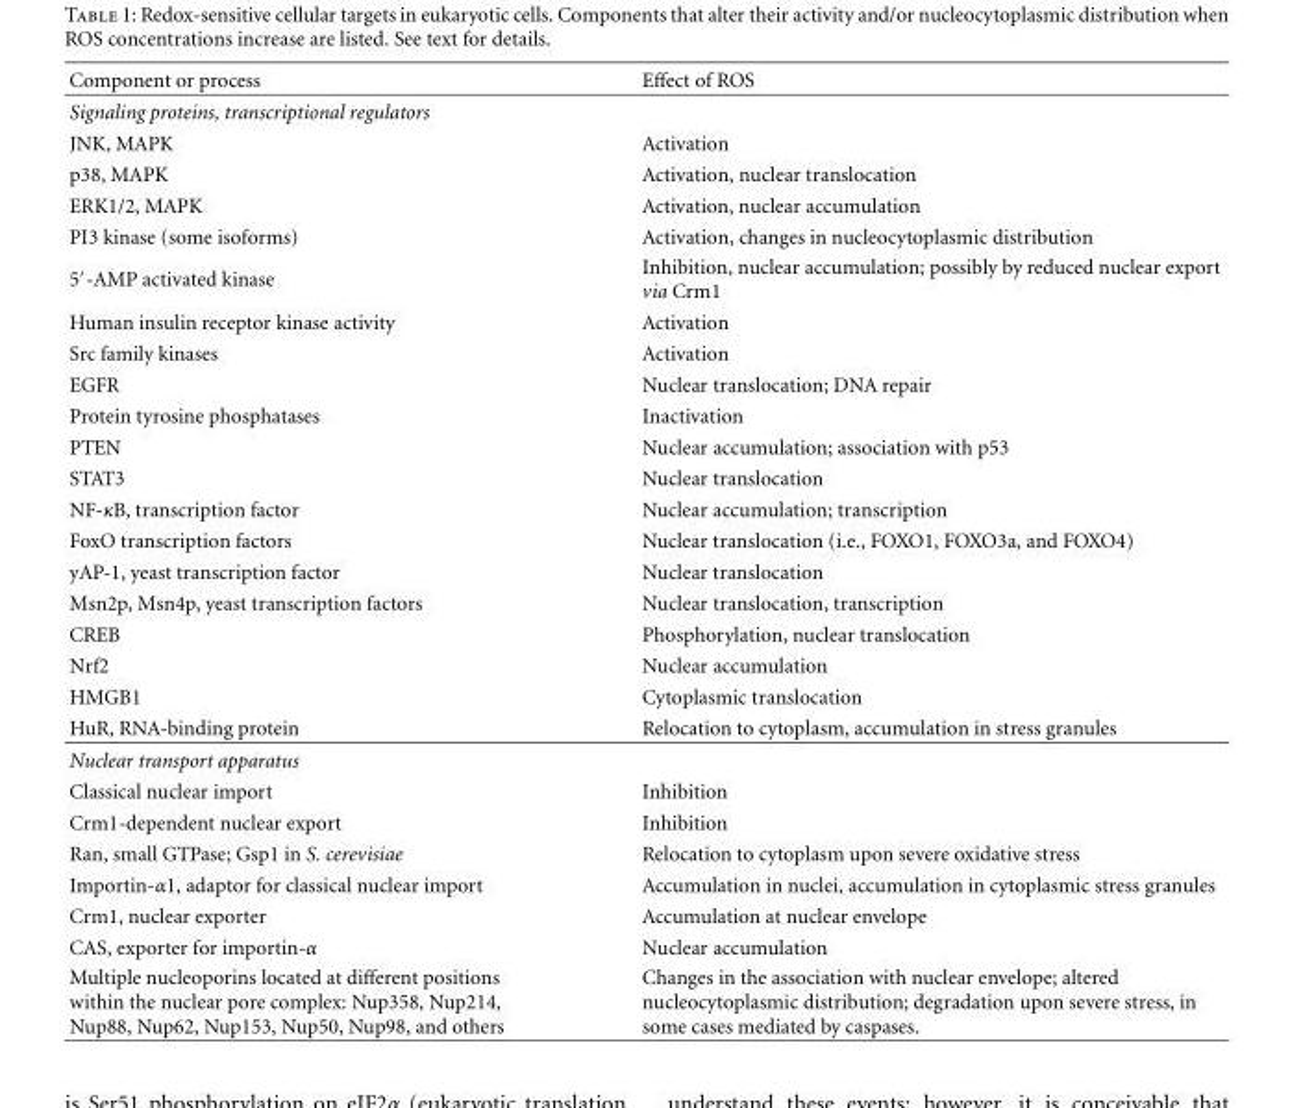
<table><thead><tr><td>Component or process</td><td>Effect of ROS</td></tr></thead><tbody><tr><td colspan="2">Signaling proteins, transcriptional regulators</td></tr><tr><td>JNK, MAPK</td><td>Activation</td></tr><tr><td>p38, MAPK</td><td>Activation, nuclear translocation</td></tr><tr><td>ERK1/2, MAPK</td><td>Activation, nuclear accumulation</td></tr><tr><td>PI3 kinase (some isoforms)</td><td>Activation, changes in nucleocytoplasmic distribution</td></tr><tr><td>5′-AMP activated kinase</td><td>Inhibition, nuclear accumulation; possibly by reduced nuclear export via Crm1</td></tr><tr><td>Human insulin receptor kinase activity</td><td>Activation</td></tr><tr><td>Src family kinases</td><td>Activation</td></tr><tr><td>EGFR</td><td>Nuclear translocation; DNA repair</td></tr><tr><td>Protein tyrosine phosphatases</td><td>Inactivation</td></tr><tr><td>PTEN</td><td>Nuclear accumulation; association with p53</td></tr><tr><td>STAT3</td><td>Nuclear translocation</td></tr><tr><td>NF-κB, transcription factor</td><td>Nuclear accumulation; transcription</td></tr><tr><td>FoxO transcription factors</td><td>Nuclear translocation (i.e., FOXO1, FOXO3a, and FOXO4)</td></tr><tr><td>yAP-1, yeast transcription factor</td><td>Nuclear translocation</td></tr><tr><td>Msn2p, Msn4p, yeast transcription factors</td><td>Nuclear translocation, transcription</td></tr><tr><td>CREB</td><td>Phosphorylation, nuclear translocation</td></tr><tr><td>Nrf2</td><td>Nuclear accumulation</td></tr><tr><td>HMGB1</td><td>Cytoplasmic translocation</td></tr><tr><td>HuR, RNA-binding protein</td><td>Relocation to cytoplasm, accumulation in stress granules</td></tr><tr><td colspan="2">Nuclear transport apparatus</td></tr><tr><td>Classical nuclear import</td><td>Inhibition</td></tr><tr><td>Crm1-dependent nuclear export</td><td>Inhibition</td></tr><tr><td>Ran, small GTPase; Gsp1 in S. cerevisiae</td><td>Relocation to cytoplasm upon severe oxidative stress</td></tr><tr><td>Importin-α1, adaptor for classical nuclear import</td><td>Accumulation in nuclei, accumulation in cytoplasmic stress granules</td></tr><tr><td>Crm1, nuclear exporter</td><td>Accumulation at nuclear envelope</td></tr><tr><td>CAS, exporter for importin-α</td><td>Nuclear accumulation</td></tr><tr><td>Multiple nucleoporins located at different positions within the nuclear pore complex: Nup358, Nup214, Nup88, Nup62, Nup153, Nup50, Nup98, and others</td><td>Changes in the association with nuclear envelope; altered nucleocytoplasmic distribution; degradation upon severe stress, in some cases mediated by caspases.</td></tr></tbody></table>